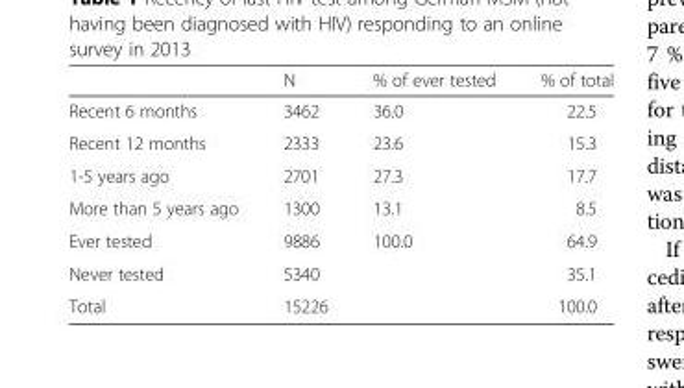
<table><thead><tr><td></td><td>N</td><td>% of ever tested</td><td>% of total</td></tr></thead><tbody><tr><td>Recent 6 months</td><td>3462</td><td>36.0</td><td>22.5</td></tr><tr><td>Recent 12 months</td><td>2333</td><td>23.6</td><td>15.3</td></tr><tr><td>1-5 years ago</td><td>2701</td><td>27.3</td><td>17.7</td></tr><tr><td>More than 5 years ago</td><td>1300</td><td>13.1</td><td>8.5</td></tr><tr><td>Ever tested</td><td>9886</td><td>100.0</td><td>64.9</td></tr><tr><td>Never tested</td><td>5340</td><td></td><td>35.1</td></tr><tr><td>Total</td><td>15226</td><td></td><td>100.0</td></tr></tbody></table>